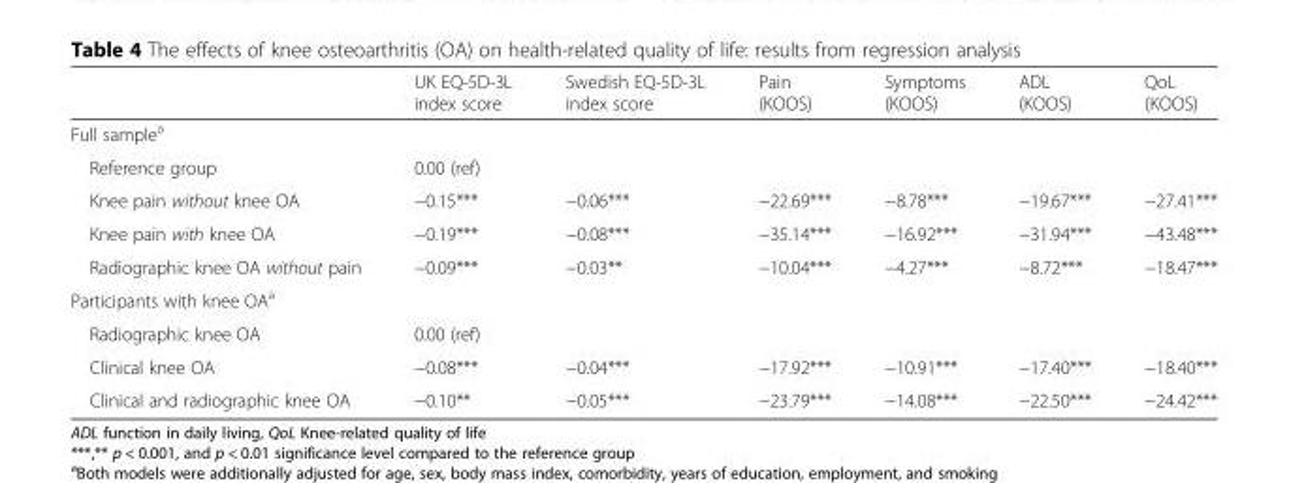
<table><thead><tr><td></td><td>UK EQ-5D-3L index score</td><td>Swedish EQ-5D-3L index score</td><td>Pain (KOOS)</td><td>Symptoms (KOOS)</td><td>ADL (KOOS)</td><td>QoL (KOOS)</td></tr></thead><tbody><tr><td colspan="7">Full sample<sup>a</sup></td></tr><tr><td>Reference group</td><td>0.00 (ref)</td><td></td><td></td><td></td><td></td><td></td></tr><tr><td>Knee pain without knee OA</td><td>−0.15***</td><td>−0.06***</td><td>−22.69***</td><td>−8.78***</td><td>−19.67***</td><td>−27.41***</td></tr><tr><td>Knee pain with knee OA</td><td>−0.19***</td><td>−0.08***</td><td>−35.14***</td><td>−16.92***</td><td>−31.94***</td><td>−43.48***</td></tr><tr><td>Radiographic knee OA without pain</td><td>−0.09***</td><td>−0.03**</td><td>−10.04***</td><td>−4.27***</td><td>−8.72***</td><td>−18.47***</td></tr><tr><td colspan="7">Participants with knee OA<sup>a</sup></td></tr><tr><td>Radiographic knee OA</td><td>0.00 (ref)</td><td></td><td></td><td></td><td></td><td></td></tr><tr><td>Clinical knee OA</td><td>−0.08***</td><td>−0.04***</td><td>−17.92***</td><td>−10.91***</td><td>−17.40***</td><td>−18.40***</td></tr><tr><td>Clinical and radiographic knee OA</td><td>−0.10**</td><td>−0.05***</td><td>−23.79***</td><td>−14.08***</td><td>−22.50***</td><td>−24.42***</td></tr></tbody></table>